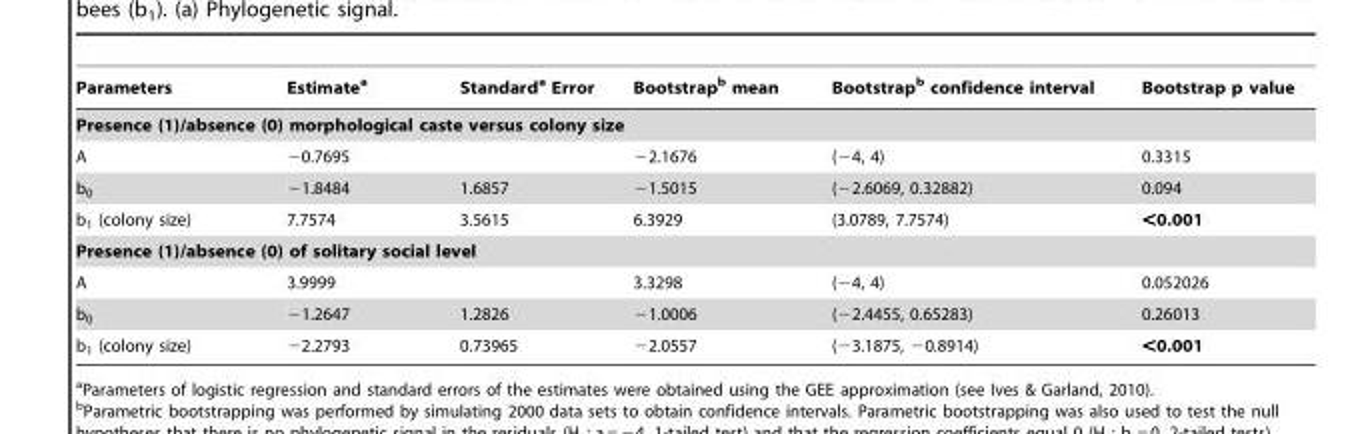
<table><thead><tr><td>Parameters</td><td>Estimate<sup>a</sup></td><td>Standard<sup>a</sup> Error</td><td>Bootstrap<sup>b</sup> mean</td><td>Bootstrap<sup>b</sup> confidence interval</td><td>Bootstrap p value</td></tr></thead><tbody><tr><td colspan="6">Presence (1)/absence (0) morphological caste versus colony size</td></tr><tr><td>A</td><td>−0.7695</td><td></td><td>−2.1676</td><td>(−4, 4)</td><td>0.3315</td></tr><tr><td>b<sub>0</sub></td><td>−1.8484</td><td>1.6857</td><td>−1.5015</td><td>(−2.6069, 0.32882)</td><td>0.094</td></tr><tr><td>b<sub>1</sub> (colony size)</td><td>7.7574</td><td>3.5615</td><td>6.3929</td><td>(3.0789, 7.7574)</td><td>&lt;0.001</td></tr><tr><td colspan="6">Presence (1)/absence (0) of solitary social level</td></tr><tr><td>A</td><td>3.9999</td><td></td><td>3.3298</td><td>(−4, 4)</td><td>0.052026</td></tr><tr><td>b<sub>0</sub></td><td>−1.2647</td><td>1.2826</td><td>−1.0006</td><td>(−2.4455, 0.65283)</td><td>0.26013</td></tr><tr><td>b<sub>1</sub> (colony size)</td><td>−2.2793</td><td>0.73965</td><td>−2.0557</td><td>(−3.1875, −0.8914)</td><td>&lt;0.001</td></tr></tbody></table>